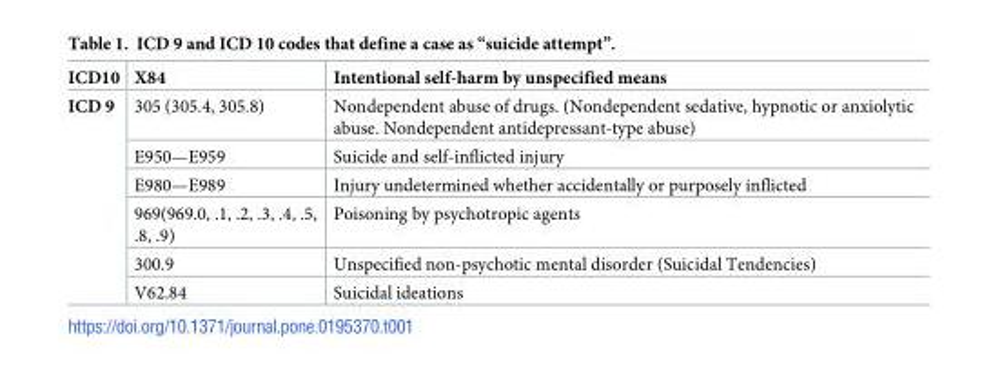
<table><tbody><tr><td>ICD10</td><td>X84</td><td>Intentional self-harm by unspecified means</td></tr><tr><td rowspan="6">ICD 9</td><td>305 (305.4, 305.8)</td><td>Nondependent abuse of drugs. (Nondependent sedative, hypnotic or anxiolytic abuse. Nondependent antidepressant-type abuse)</td></tr><tr><td>E950—E959</td><td>Suicide and self-inflicted injury</td></tr><tr><td>E980—E989</td><td>Injury undetermined whether accidentally or purposely inflicted</td></tr><tr><td>969(969.0, .1, .2, .3, .4, .5, .8, .9)</td><td>Poisoning by psychotropic agents</td></tr><tr><td>300.9</td><td>Unspecified non-psychotic mental disorder (Suicidal Tendencies)</td></tr><tr><td>V62.84</td><td>Suicidal ideations</td></tr></tbody></table>